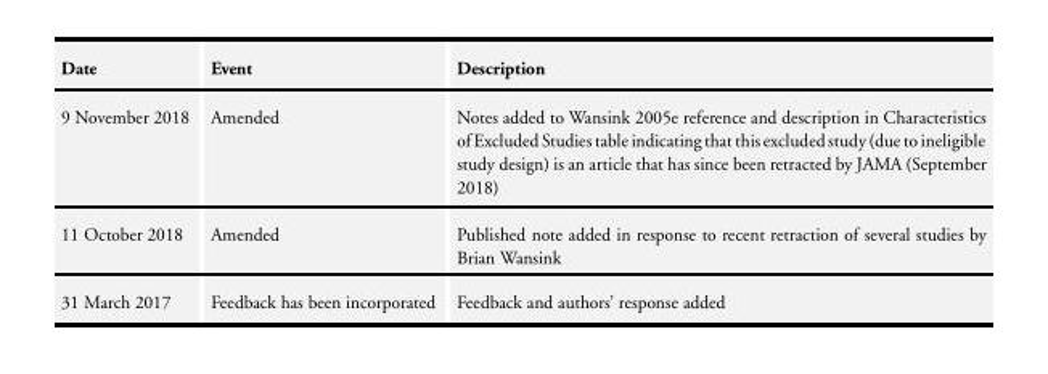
<table><thead><tr><td>Date</td><td>Event</td><td>Description</td></tr></thead><tbody><tr><td>9 November 2018</td><td>Amended</td><td>Notes added to Wansink 2005e reference and description in Characteristics of ExcludedStudiestable indicatingthatthisexcludedstudy(due toineligible study design) is an article that has since been retracted by JAMA (September 2018)</td></tr><tr><td>11 October 2018</td><td>Amended</td><td>Published note added in response to recent retraction of several studies by Brian Wansink</td></tr><tr><td>31 March 2017</td><td>Feedback has been incorporated</td><td>Feedback and authors’ response added</td></tr></tbody></table>